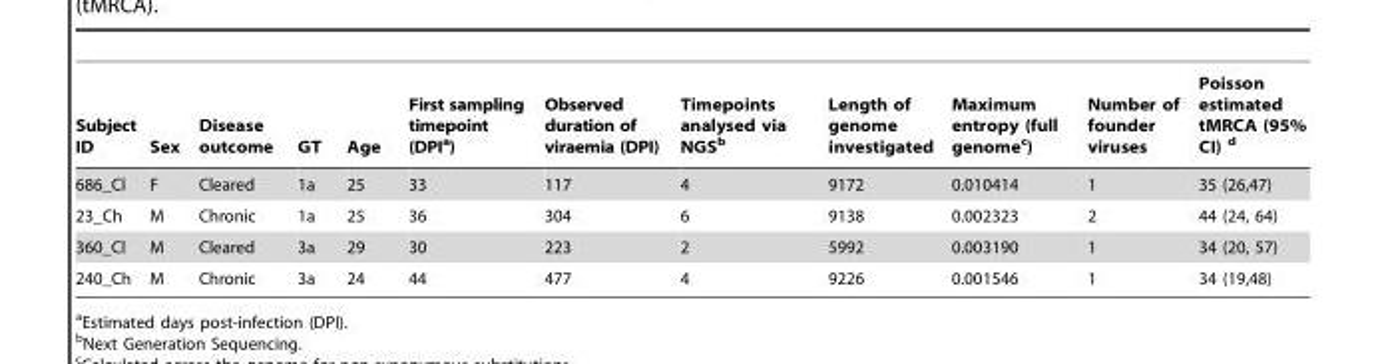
<table><thead><tr><td>Subject ID</td><td>Sex</td><td>Disease outcome</td><td>GT</td><td>Age</td><td>First sampling timepoint (DPI<sup>a</sup>)</td><td>Observed duration of viraemia (DPI)</td><td>Timepoints analysed via NGS<sup>b</sup></td><td>Length of genome investigated</td><td>Maximum entropy (full genome<sup>c</sup>)</td><td>Number of founder viruses</td><td>Poisson estimated tMRCA (95% CI) d</td></tr></thead><tbody><tr><td>686_Cl</td><td>F</td><td>Cleared</td><td>1a</td><td>25</td><td>33</td><td>117</td><td>4</td><td>9172</td><td>0.010414</td><td>1</td><td>35 (26,47)</td></tr><tr><td>23_Ch</td><td>M</td><td>Chronic</td><td>1a</td><td>25</td><td>36</td><td>304</td><td>6</td><td>9138</td><td>0.002323</td><td>2</td><td>44 (24, 64)</td></tr><tr><td>360_Cl</td><td>M</td><td>Cleared</td><td>3a</td><td>29</td><td>30</td><td>223</td><td>2</td><td>5992</td><td>0.003190</td><td>1</td><td>34 (20, 57)</td></tr><tr><td>240_Ch</td><td>M</td><td>Chronic</td><td>3a</td><td>24</td><td>44</td><td>477</td><td>4</td><td>9226</td><td>0.001546</td><td>1</td><td>34 (19,48)</td></tr></tbody></table>